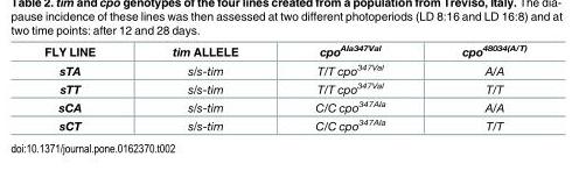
<table><thead><tr><td>FLY LINE</td><td>tim ALLELE</td><td>cpo<sup>Ala347Val</sup></td><td>cpo<sup>48034(A/T)</sup></td></tr></thead><tbody><tr><td>sTA</td><td>s/s-tim</td><td>T/T cpo<sup>347Val</sup></td><td>A/A</td></tr><tr><td>sTT</td><td>s/s-tim</td><td>T/T cpo<sup>347Val</sup></td><td>T/T</td></tr><tr><td>sCA</td><td>s/s-tim</td><td>C/C cpo<sup>347Ala</sup></td><td>A/A</td></tr><tr><td>sCT</td><td>s/s-tim</td><td>C/C cpo<sup>347Ala</sup></td><td>T/T</td></tr></tbody></table>